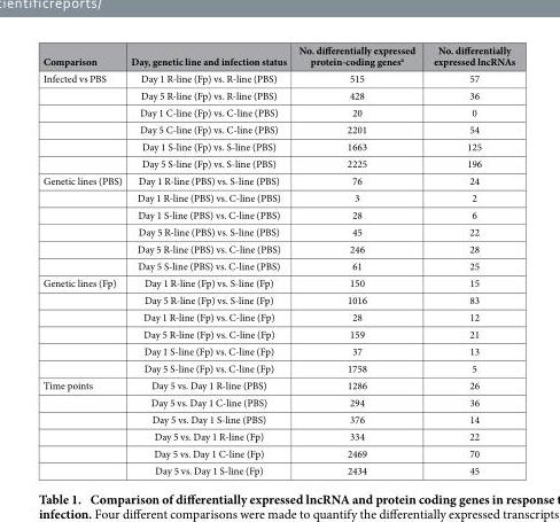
<table><thead><tr><td>Comparison</td><td>Day, genetic line and infection status</td><td>No. differentially expressed protein-coding genes<sup>a</sup></td><td>No. differentially expressed lncRNAs</td></tr></thead><tbody><tr><td rowspan="6">Infected vs PBS</td><td>Day 1 R-line (Fp) vs. R-line (PBS)</td><td>515</td><td>57</td></tr><tr><td>Day 5 R-line (Fp) vs. R-line (PBS)</td><td>428</td><td>36</td></tr><tr><td>Day 1 C-line (Fp) vs. C-line (PBS)</td><td>20</td><td>0</td></tr><tr><td>Day 5 C-line (Fp) vs. C-line (PBS)</td><td>2201</td><td>54</td></tr><tr><td>Day 1 S-line (Fp) vs. S-line (PBS)</td><td>1663</td><td>125</td></tr><tr><td>Day 5 S-line (Fp) vs. S-line (PBS)</td><td>2225</td><td>196</td></tr><tr><td rowspan="6">Genetic lines (PBS)</td><td>Day 1 R-line (PBS) vs. S-line (PBS)</td><td>76</td><td>24</td></tr><tr><td>Day 1 R-line (PBS) vs. C-line (PBS)</td><td>3</td><td>2</td></tr><tr><td>Day 1 S-line (PBS) vs. C-line (PBS)</td><td>28</td><td>6</td></tr><tr><td>Day 5 R-line (PBS) vs. S-line (PBS)</td><td>45</td><td>22</td></tr><tr><td>Day 5 R-line (PBS) vs. C-line (PBS)</td><td>246</td><td>28</td></tr><tr><td>Day 5 S-line (PBS) vs. C-line (PBS)</td><td>61</td><td>25</td></tr><tr><td rowspan="6">Genetic lines (Fp)</td><td>Day 1 R-line (Fp) vs. S-line (Fp)</td><td>150</td><td>15</td></tr><tr><td>Day 5 R-line (Fp) vs. S-line (Fp)</td><td>1016</td><td>83</td></tr><tr><td>Day 1 R-line (Fp) vs. C-line (Fp)</td><td>28</td><td>12</td></tr><tr><td>Day 5 R-line (Fp) vs. C-line (Fp)</td><td>159</td><td>21</td></tr><tr><td>Day 1 S-line (Fp) vs. C-line (Fp)</td><td>37</td><td>13</td></tr><tr><td>Day 5 S-line (Fp) vs. C-line (Fp)</td><td>1758</td><td>5</td></tr><tr><td rowspan="6">Time points</td><td>Day 5 vs. Day 1 R-line (PBS)</td><td>1286</td><td>26</td></tr><tr><td>Day 5 vs. Day 1 C-line (PBS)</td><td>294</td><td>36</td></tr><tr><td>Day 5 vs. Day 1 S-line (PBS)</td><td>376</td><td>14</td></tr><tr><td>Day 5 vs. Day 1 R-line (Fp)</td><td>334</td><td>22</td></tr><tr><td>Day 5 vs. Day 1 C-line (Fp)</td><td>2469</td><td>70</td></tr><tr><td>Day 5 vs. Day 1 S-line (Fp)</td><td>2434</td><td>45</td></tr></tbody></table>